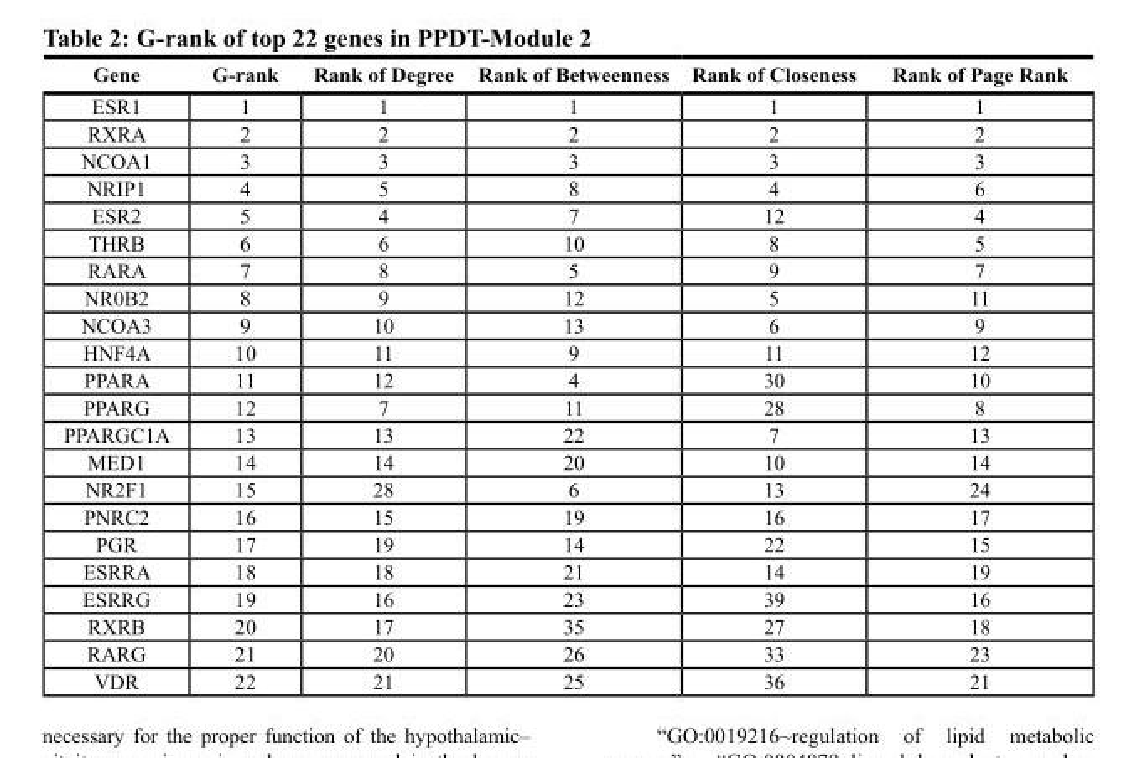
<table><thead><tr><td>Gene</td><td>G-rank</td><td>rank of degree</td><td>rank of betweenness</td><td>rank of closeness</td><td>rank of Page rank</td></tr></thead><tbody><tr><td>ESR1</td><td>1</td><td>1</td><td>1</td><td>1</td><td>1</td></tr><tr><td>RXRA</td><td>2</td><td>2</td><td>2</td><td>2</td><td>2</td></tr><tr><td>NCOA1</td><td>3</td><td>3</td><td>3</td><td>3</td><td>3</td></tr><tr><td>NRIP1</td><td>4</td><td>5</td><td>8</td><td>4</td><td>6</td></tr><tr><td>ESR2</td><td>5</td><td>4</td><td>7</td><td>12</td><td>4</td></tr><tr><td>THRB</td><td>6</td><td>6</td><td>10</td><td>8</td><td>5</td></tr><tr><td>RARA</td><td>7</td><td>8</td><td>5</td><td>9</td><td>7</td></tr><tr><td>NR0B2</td><td>8</td><td>9</td><td>12</td><td>5</td><td>11</td></tr><tr><td>NCOA3</td><td>9</td><td>10</td><td>13</td><td>6</td><td>9</td></tr><tr><td>HNF4A</td><td>10</td><td>11</td><td>9</td><td>11</td><td>12</td></tr><tr><td>PPARA</td><td>11</td><td>12</td><td>4</td><td>30</td><td>10</td></tr><tr><td>PPARG</td><td>12</td><td>7</td><td>11</td><td>28</td><td>8</td></tr><tr><td>PPARGC1A</td><td>13</td><td>13</td><td>22</td><td>7</td><td>13</td></tr><tr><td>MED1</td><td>14</td><td>14</td><td>20</td><td>10</td><td>14</td></tr><tr><td>NR2F1</td><td>15</td><td>28</td><td>6</td><td>13</td><td>24</td></tr><tr><td>PNRC2</td><td>16</td><td>15</td><td>19</td><td>16</td><td>17</td></tr><tr><td>PGR</td><td>17</td><td>19</td><td>14</td><td>22</td><td>15</td></tr><tr><td>ESRRA</td><td>18</td><td>18</td><td>21</td><td>14</td><td>19</td></tr><tr><td>ESRRG</td><td>19</td><td>16</td><td>23</td><td>39</td><td>16</td></tr><tr><td>RXRB</td><td>20</td><td>17</td><td>35</td><td>27</td><td>18</td></tr><tr><td>RARG</td><td>21</td><td>20</td><td>26</td><td>33</td><td>23</td></tr><tr><td>VDR</td><td>22</td><td>21</td><td>25</td><td>36</td><td>21</td></tr></tbody></table>